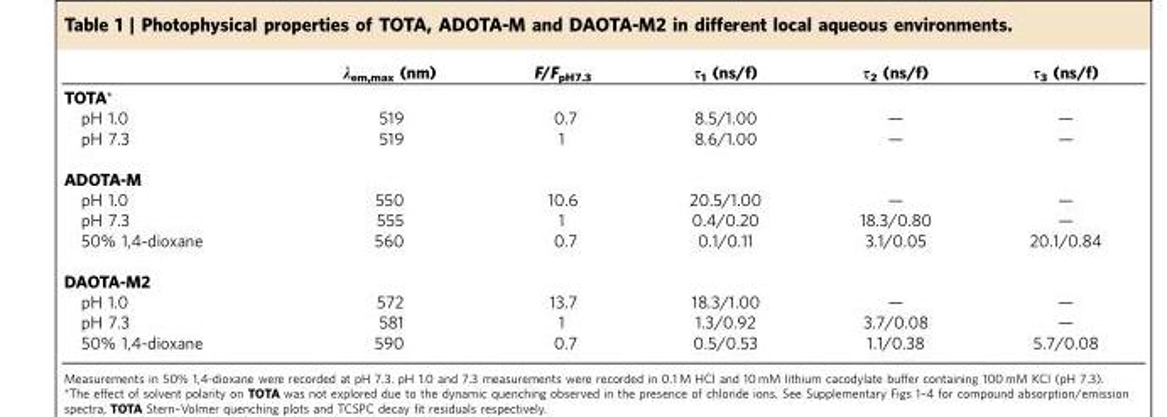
<table><thead><tr><td></td><td>λ<sub>em,max</sub> (nm)</td><td>F/F<sub>pH7.3</sub></td><td>τ<sub>1</sub> (ns/f)</td><td>τ<sub>2</sub> (ns/f)</td><td>τ<sub>3</sub> (ns/f)</td></tr></thead><tbody><tr><td colspan="6">TOTA*</td></tr><tr><td>pH 1.0</td><td>519</td><td>0.7</td><td>8.5/1.00</td><td>—</td><td>—</td></tr><tr><td>pH 7.3</td><td>519</td><td>1</td><td>8.6/1.00</td><td>—</td><td>—</td></tr><tr><td colspan="6">ADOTA-M</td></tr><tr><td>pH 1.0</td><td>550</td><td>10.6</td><td>20.5/1.00</td><td>—</td><td>—</td></tr><tr><td>pH 7.3</td><td>555</td><td>1</td><td>0.4/0.20</td><td>18.3/0.80</td><td>—</td></tr><tr><td>50% 1,4-dioxane</td><td>560</td><td>0.7</td><td>0.1/0.11</td><td>3.1/0.05</td><td>20.1/0.84</td></tr><tr><td colspan="6">DAOTA-M2</td></tr><tr><td>pH 1.0</td><td>572</td><td>13.7</td><td>18.3/1.00</td><td>—</td><td>—</td></tr><tr><td>pH 7.3</td><td>581</td><td>1</td><td>1.3/0.92</td><td>3.7/0.08</td><td>—</td></tr><tr><td>50% 1,4-dioxane</td><td>590</td><td>0.7</td><td>0.5/0.53</td><td>1.1/0.38</td><td>5.7/0.08</td></tr></tbody></table>